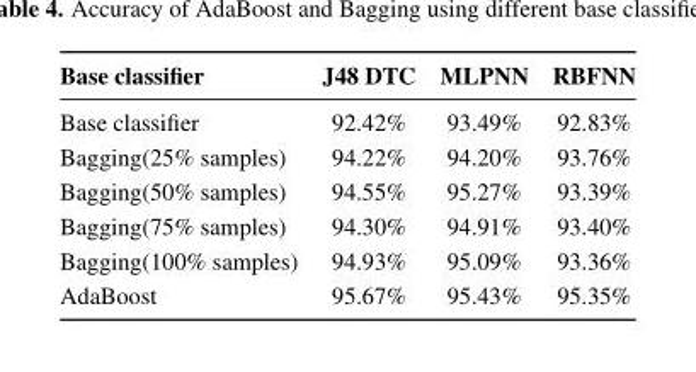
<table><thead><tr><td>Base classifier</td><td>J48 DTC</td><td>MLPNN</td><td>RBFNN</td></tr></thead><tbody><tr><td>Base classifier</td><td>92.42%</td><td>93.49%</td><td>92.83%</td></tr><tr><td>Bagging(25% samples)</td><td>94.22%</td><td>94.20%</td><td>93.76%</td></tr><tr><td>Bagging(50% samples)</td><td>94.55%</td><td>95.27%</td><td>93.39%</td></tr><tr><td>Bagging(75% samples)</td><td>94.30%</td><td>94.91%</td><td>93.40%</td></tr><tr><td>Bagging(100% samples)</td><td>94.93%</td><td>95.09%</td><td>93.36%</td></tr><tr><td>AdaBoost</td><td>95.67%</td><td>95.43%</td><td>95.35%</td></tr></tbody></table>